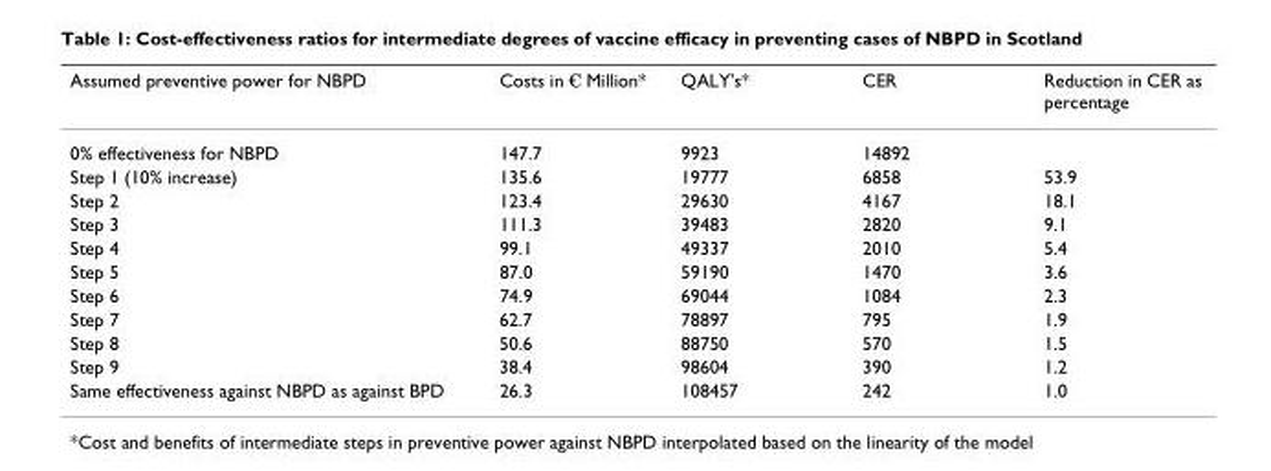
<table><thead><tr><td>Assumed preventive power for NBPD</td><td>Costs in € Million*</td><td>QALY&#x27;s*</td><td>CER</td><td>Reduction in CER as percentage</td></tr></thead><tbody><tr><td>0% effectiveness for NBPD</td><td>147.7</td><td>9923</td><td>14892</td><td></td></tr><tr><td>Step 1 (10% increase)</td><td>135.6</td><td>19777</td><td>6858</td><td>53.9</td></tr><tr><td>Step 2</td><td>123.4</td><td>29630</td><td>4167</td><td>18.1</td></tr><tr><td>Step 3</td><td>111.3</td><td>39483</td><td>2820</td><td>9.1</td></tr><tr><td>Step 4</td><td>99.1</td><td>49337</td><td>2010</td><td>5.4</td></tr><tr><td>Step 5</td><td>87.0</td><td>59190</td><td>1470</td><td>3.6</td></tr><tr><td>Step 6</td><td>74.9</td><td>69044</td><td>1084</td><td>2.3</td></tr><tr><td>Step 7</td><td>62.7</td><td>78897</td><td>795</td><td>1.9</td></tr><tr><td>Step 8</td><td>50.6</td><td>88750</td><td>570</td><td>1.5</td></tr><tr><td>Step 9</td><td>38.4</td><td>98604</td><td>390</td><td>1.2</td></tr><tr><td>Same effectiveness against NBPD as against BPD</td><td>26.3</td><td>108457</td><td>242</td><td>1.0</td></tr></tbody></table>